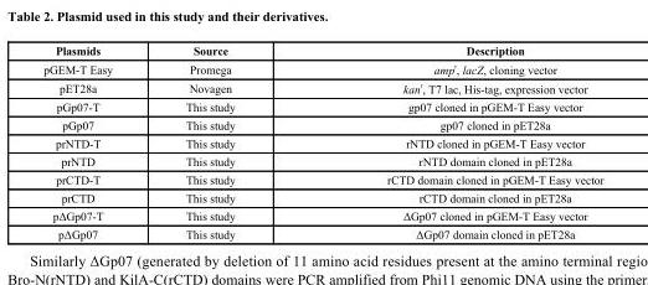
<table><thead><tr><td>Plasmids</td><td>Source</td><td>Description</td></tr></thead><tbody><tr><td>pGEM-T Easy</td><td>Promega</td><td>amp <sup>r</sup>, lacZ, cloning vector</td></tr><tr><td>pET28a</td><td>Novagen</td><td>kan <sup>r</sup>, T7 lac, His-tag, expression vector</td></tr><tr><td>pGp07-T</td><td>This study</td><td>gp07 cloned in pGEM-T Easy vector</td></tr><tr><td>pGp07</td><td>This study</td><td>gp07 cloned in pET28a</td></tr><tr><td>prNTD-T</td><td>This study</td><td>rNTD cloned in pGEM-T Easy vector</td></tr><tr><td>prNTD</td><td>This study</td><td>rNTD domain cloned in pET28a</td></tr><tr><td>prCTD-T</td><td>This study</td><td>rCTD domain cloned in pGEM-T Easy vector</td></tr><tr><td>prCTD</td><td>This study</td><td>rCTD domain cloned in pET28a</td></tr><tr><td>pΔGp07-T</td><td>This study</td><td>ΔGp07 cloned in pGEM-T Easy vector</td></tr><tr><td>pΔGp07</td><td>This study</td><td>ΔGp07 domain cloned in pET28a</td></tr></tbody></table>